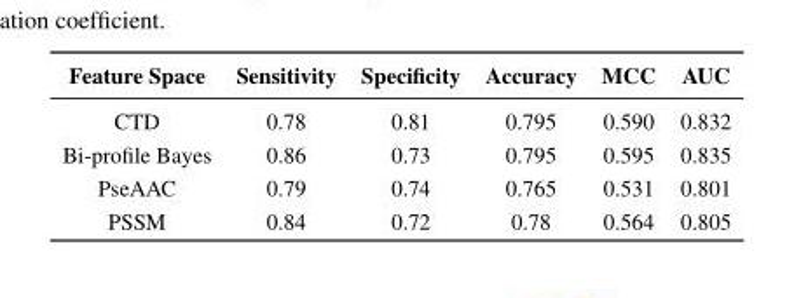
<table><thead><tr><td>Feature Space</td><td>Sensitivity</td><td>Specificity</td><td>Accuracy</td><td>MCC</td><td>AUC</td></tr></thead><tbody><tr><td>CTD</td><td>0.78</td><td>0.81</td><td>0.795</td><td>0.590</td><td>0.832</td></tr><tr><td>Bi-profile Bayes</td><td>0.86</td><td>0.73</td><td>0.795</td><td>0.595</td><td>0.835</td></tr><tr><td>PseAAC</td><td>0.79</td><td>0.74</td><td>0.765</td><td>0.531</td><td>0.801</td></tr><tr><td>PSSM</td><td>0.84</td><td>0.72</td><td>0.78</td><td>0.564</td><td>0.805</td></tr></tbody></table>